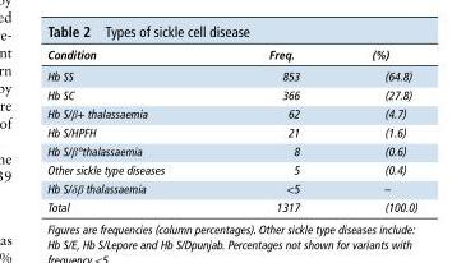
<table><thead><tr><td>Condition</td><td>Freq.</td><td>(%)</td></tr></thead><tbody><tr><td>Hb SS</td><td>853</td><td>(64.8)</td></tr><tr><td>Hb SC</td><td>366</td><td>(27.8)</td></tr><tr><td>Hb S/β+ thalassaemia</td><td>62</td><td>(4.7)</td></tr><tr><td>Hb S/HPFH</td><td>21</td><td>(1.6)</td></tr><tr><td>Hb S/β°thalassaemia</td><td>8</td><td>(0.6)</td></tr><tr><td>Other sickle type diseases</td><td>5</td><td>(0.4)</td></tr><tr><td>Hb S/δβ thalassaemia</td><td>&lt;5</td><td>–</td></tr><tr><td>Total</td><td>1317</td><td>(100.0)</td></tr></tbody></table>